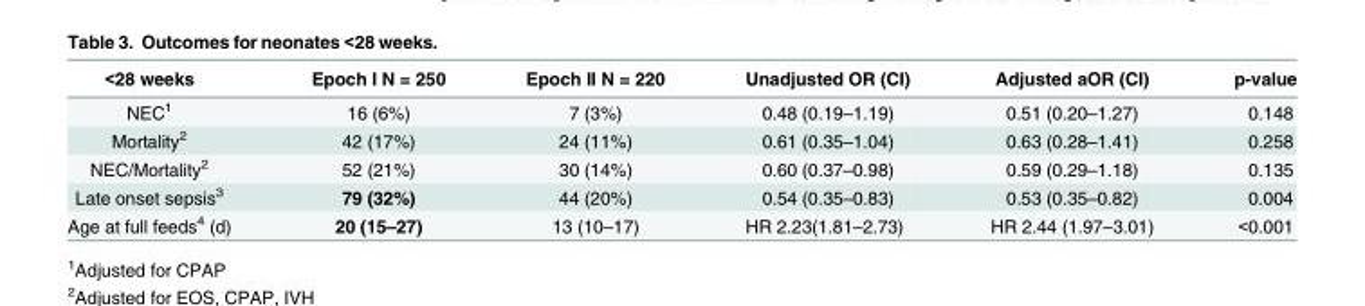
<table><thead><tr><td>&lt;28 weeks</td><td>Epoch I N = 250</td><td>Epoch II N = 220</td><td>Unadjusted OR (CI)</td><td>Adjusted aOR (CI)</td><td>p-value</td></tr></thead><tbody><tr><td>NEC<sup>1</sup></td><td>16 (6%)</td><td>7 (3%)</td><td>0.48 (0.19–1.19)</td><td>0.51 (0.20–1.27)</td><td>0.148</td></tr><tr><td>Mortality<sup>2</sup></td><td>42 (17%)</td><td>24 (11%)</td><td>0.61 (0.35–1.04)</td><td>0.63 (0.28–1.41)</td><td>0.258</td></tr><tr><td>NEC/Mortality<sup>2</sup></td><td>52 (21%)</td><td>30 (14%)</td><td>0.60 (0.37–0.98)</td><td>0.59 (0.29–1.18)</td><td>0.135</td></tr><tr><td>Late onset sepsis<sup>3</sup></td><td>79 (32%)</td><td>44 (20%)</td><td>0.54 (0.35–0.83)</td><td>0.53 (0.35–0.82)</td><td>0.004</td></tr><tr><td>Age at full feeds<sup>4</sup> (d)</td><td>20 (15–27)</td><td>13 (10–17)</td><td>HR 2.23(1.81–2.73)</td><td>HR 2.44 (1.97–3.01)</td><td>&lt;0.001</td></tr></tbody></table>